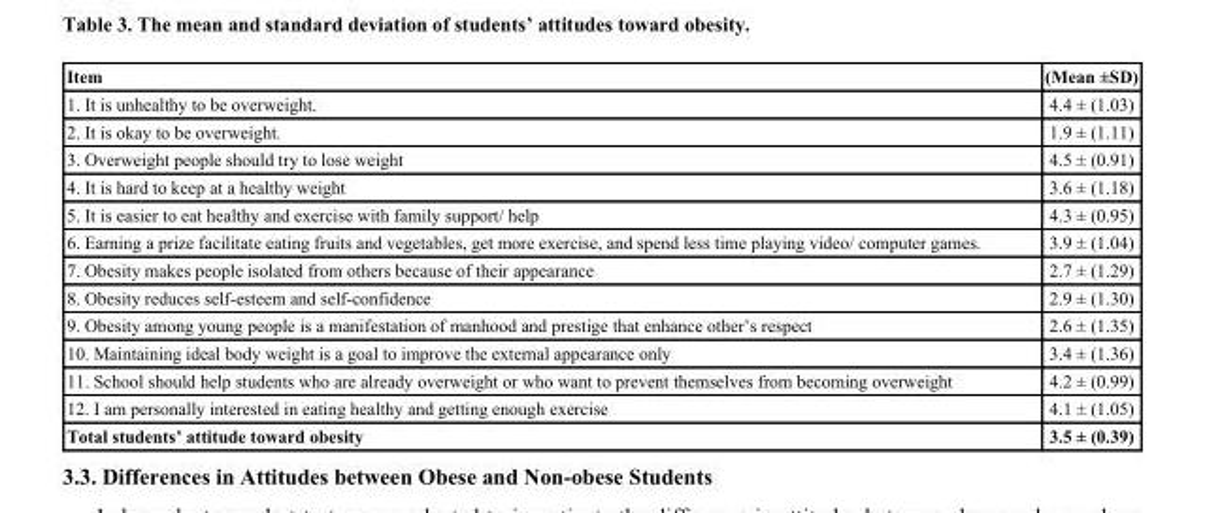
<table><thead><tr><td>Item</td><td>(Mean ±SD)</td></tr></thead><tbody><tr><td>1. It is unhealthy to be overweight.</td><td>4.4 ± (1.03)</td></tr><tr><td>2. It is okay to be overweight.</td><td>1.9 ± (1.11)</td></tr><tr><td>3. Overweight people should try to lose weight</td><td>4.5 ± (0.91)</td></tr><tr><td>4. It is hard to keep at a healthy weight</td><td>3.6 ± (1.18)</td></tr><tr><td>5. It is easier to eat healthy and exercise with family support/ help</td><td>4.3 ± (0.95)</td></tr><tr><td>6. Earning a prize facilitate eating fruits and vegetables, get more exercise, and spend less time playing video/ computer games.</td><td>3.9 ± (1.04)</td></tr><tr><td>7. Obesity makes people isolated from others because of their appearance</td><td>2.7 ± (1.29)</td></tr><tr><td>8. Obesity reduces self-esteem and self-confidence</td><td>2.9 ± (1.30)</td></tr><tr><td>9. Obesity among young people is a manifestation of manhood and prestige that enhance other’s respect</td><td>2.6 ± (1.35)</td></tr><tr><td>10. Maintaining ideal body weight is a goal to improve the external appearance only</td><td>3.4 ± (1.36)</td></tr><tr><td>11. School should help students who are already overweight or who want to prevent themselves from becoming overweight</td><td>4.2 ± (0.99)</td></tr><tr><td>12. I am personally interested in eating healthy and getting enough exercise</td><td>4.1 ± (1.05)</td></tr><tr><td>Total students’ attitude toward obesity</td><td>3.5 ± (0.39)</td></tr></tbody></table>